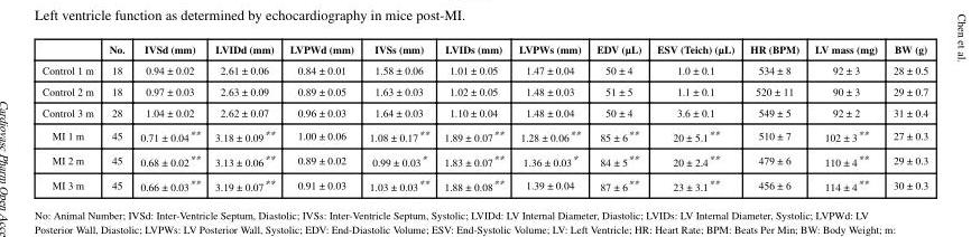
<table><thead><tr><td></td><td>No.</td><td>IVSd (mm)</td><td>LVIDd (mm)</td><td>LVPWd (mm)</td><td>IVSs (mm)</td><td>LVIDs (mm)</td><td>LVPWs (mm)</td><td>EDV (μL)</td><td>ESV (Teich) (μL)</td><td>HR (BPM)</td><td>LV mass (mg)</td><td>BW (g)</td></tr></thead><tbody><tr><td>Control 1 m</td><td>18</td><td>0.94 ± 0.02</td><td>2.61 ± 0.06</td><td>0.84 ± 0.01</td><td>1.58 ± 0.06</td><td>1.01 ± 0.05</td><td>1.47 ± 0.04</td><td>50 ± 4</td><td>1.0 ± 0.1</td><td>534 ± 8</td><td>92 ± 3</td><td>28 ± 0.5</td></tr><tr><td>Control 2 m</td><td>18</td><td>0.97 ± 0.03</td><td>2.63 ± 0.09</td><td>0.89 ± 0.05</td><td>1.63 ± 0.03</td><td>1.02 ± 0.05</td><td>1.48 ± 0.03</td><td>51 ± 5</td><td>1.1 ± 0.1</td><td>520 ± 11</td><td>90 ± 3</td><td>29 ± 0.7</td></tr><tr><td>Control 3 m</td><td>28</td><td>1.04 ± 0.02</td><td>2.62 ± 0.07</td><td>0.96 ± 0.03</td><td>1.64 ± 0.03</td><td>1.10 ± 0.04</td><td>1.48 ± 0.04</td><td>50 ± 4</td><td>3.6 ± 0.1</td><td>549 ± 5</td><td>92 ± 2</td><td>31 ± 0.4</td></tr><tr><td>MI 1 m</td><td>45</td><td>0.71 ± 0.04**</td><td>3.18 ± 0.09**</td><td>1.00 ± 0.06</td><td>1.08 ± 0.17**</td><td>1.89 ± 0.07**</td><td>1.28 ± 0.06**</td><td>85 ± 6**</td><td>20 ± 5.1**</td><td>510 ± 7</td><td>102 ± 3**</td><td>27 ± 0.3</td></tr><tr><td>MI 2 m</td><td>45</td><td>0.68 ± 0.02**</td><td>3.13 ± 0.06**</td><td>0.89 ± 0.02</td><td>0.99 ± 0.03*</td><td>1.83 ± 0.07**</td><td>1.36 ± 0.03*</td><td>84 ± 5**</td><td>20 ± 2.4**</td><td>479 ± 6</td><td>110 ± 4**</td><td>29 ± 0.3</td></tr><tr><td>MI 3 m</td><td>45</td><td>0.66 ± 0.03**</td><td>3.19 ± 0.07**</td><td>0.91 ± 0.03</td><td>1.03 ± 0.03**</td><td>1.88 ± 0.08**</td><td>1.39 ± 0.04</td><td>87 ± 6**</td><td>23 ± 3.1**</td><td>456 ± 6</td><td>114 ± 4**</td><td>30 ± 0.3</td></tr></tbody></table>